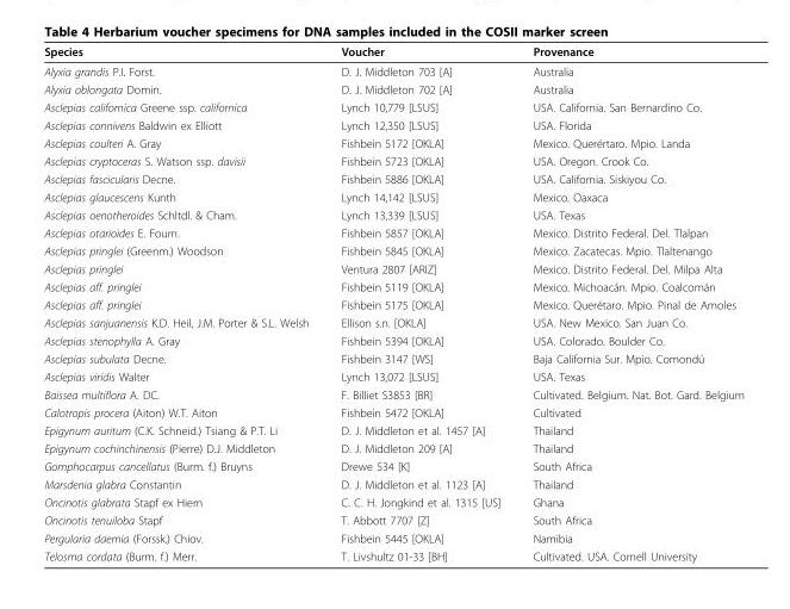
<table><thead><tr><td>Species</td><td>Voucher</td><td>Provenance</td></tr></thead><tbody><tr><td>Alyxia grandis P.I. Forst.</td><td>D. J. Middleton 703 [A]</td><td>Australia</td></tr><tr><td>Alyxia oblongata Domin.</td><td>D. J. Middleton 702 [A]</td><td>Australia</td></tr><tr><td>Asclepias californica Greene ssp. californica</td><td>Lynch 10,779 [LSUS]</td><td>USA. California. San Bernardino Co.</td></tr><tr><td>Asclepias connivens Baldwin ex Elliott</td><td>Lynch 12,350 [LSUS]</td><td>USA. Florida</td></tr><tr><td>Asclepias coulteri A. Gray</td><td>Fishbein 5172 [OKLA]</td><td>Mexico. Querértaro. Mpio. Landa</td></tr><tr><td>Asclepias cryptoceras S. Watson ssp. davisii</td><td>Fishbein 5723 [OKLA]</td><td>USA. Oregon. Crook Co.</td></tr><tr><td>Asclepias fascicularis Decne.</td><td>Fishbein 5886 [OKLA]</td><td>USA. California. Siskiyou Co.</td></tr><tr><td>Asclepias glaucescens Kunth</td><td>Lynch 14,142 [LSUS]</td><td>Mexico. Oaxaca</td></tr><tr><td>Asclepias oenotheroides Schltdl. &amp; Cham.</td><td>Lynch 13,339 [LSUS]</td><td>USA. Texas</td></tr><tr><td>Asclepias otarioides E. Fourn.</td><td>Fishbein 5857 [OKLA]</td><td>Mexico. Distrito Federal. Del. Tlalpan</td></tr><tr><td>Asclepias pringlei (Greenm.) Woodson</td><td>Fishbein 5845 [OKLA]</td><td>Mexico. Zacatecas. Mpio. Tlaltenango</td></tr><tr><td>Asclepias pringlei</td><td>Ventura 2807 [ARIZ]</td><td>Mexico. Distrito Federal. Del. Milpa Alta</td></tr><tr><td>Asclepias aff. pringlei</td><td>Fishbein 5119 [OKLA]</td><td>Mexico. Michoacán. Mpio. Coalcomán</td></tr><tr><td>Asclepias aff. pringlei</td><td>Fishbein 5175 [OKLA]</td><td>Mexico. Querétaro. Mpio. Pinal de Amoles</td></tr><tr><td>Asclepias sanjuanensis K.D. Heil, J.M. Porter &amp; S.L. Welsh</td><td>Ellison s.n. [OKLA]</td><td>USA. New Mexico. San Juan Co.</td></tr><tr><td>Asclepias stenophylla A. Gray</td><td>Fishbein 5394 [OKLA]</td><td>USA. Colorado. Boulder Co.</td></tr><tr><td>Asclepias subulata Decne.</td><td>Fishbein 3147 [WS]</td><td>Baja California Sur. Mpio. Comondú</td></tr><tr><td>Asclepias viridis Walter</td><td>Lynch 13,072 [LSUS]</td><td>USA. Texas</td></tr><tr><td>Baissea multiflora A. DC.</td><td>F. Billiet S3853 [BR]</td><td>Cultivated. Belgium. Nat. Bot. Gard. Belgium</td></tr><tr><td>Calotropis procera (Aiton) W.T. Aiton</td><td>Fishbein 5472 [OKLA]</td><td>Cultivated</td></tr><tr><td>Epigynum auritum (C.K. Schneid.) Tsiang &amp; P.T. Li</td><td>D. J. Middleton et al. 1457 [A]</td><td>Thailand</td></tr><tr><td>Epigynum cochinchinensis (Pierre) D.J. Middleton</td><td>D. J. Middleton 209 [A]</td><td>Thailand</td></tr><tr><td>Gomphocarpus cancellatus (Burm. f.) Bruyns</td><td>Drewe 534 [K]</td><td>South Africa</td></tr><tr><td>Marsdenia glabra Constantin</td><td>D. J. Middleton et al. 1123 [A]</td><td>Thailand</td></tr><tr><td>Oncinotis glabrata Stapf ex Hiern</td><td>C. C. H. Jongkind et al. 1315 [US]</td><td>Ghana</td></tr><tr><td>Oncinotis tenuiloba Stapf</td><td>T. Abbott 7707 [Z]</td><td>South Africa</td></tr><tr><td>Pergularia daemia (Forssk.) Chiov.</td><td>Fishbein 5445 [OKLA]</td><td>Namibia</td></tr><tr><td>Telosma cordata (Burm. f.) Merr.</td><td>T. Livshultz 01-33 [BH]</td><td>Cultivated. USA. Cornell University</td></tr></tbody></table>